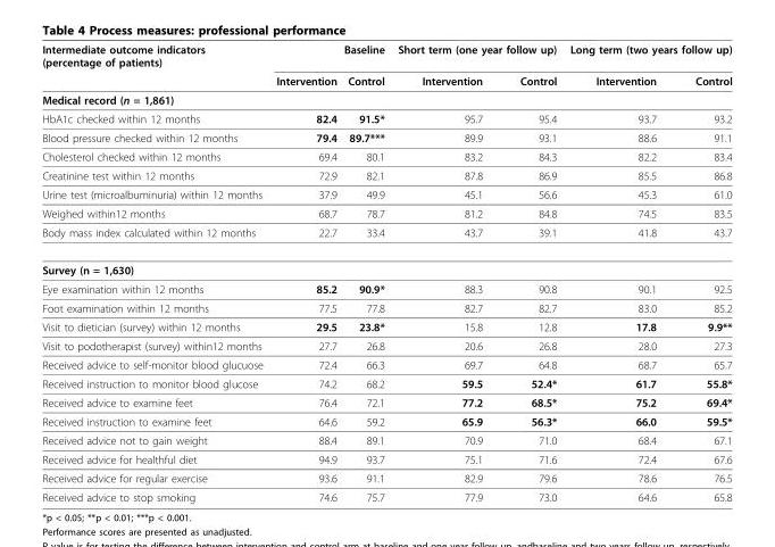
<table><thead><tr><td rowspan="2">Intermediate outcome indicators (percentage of patients)</td><td colspan="2">Baseline</td><td colspan="2">Short term (one year follow up)</td><td colspan="2">Long term (two years follow up)</td></tr><tr><td>Intervention</td><td>Control</td><td>Intervention</td><td>Control</td><td>Intervention</td><td>Control</td></tr></thead><tbody><tr><td colspan="7">Medical record (n = 1,861)</td></tr><tr><td>HbA1c checked within 12 months</td><td>82.4</td><td>91.5*</td><td>95.7</td><td>95.4</td><td>93.7</td><td>93.2</td></tr><tr><td>Blood pressure checked within 12 months</td><td>79.4</td><td>89.7***</td><td>89.9</td><td>93.1</td><td>88.6</td><td>91.1</td></tr><tr><td>Cholesterol checked within 12 months</td><td>69.4</td><td>80.1</td><td>83.2</td><td>84.3</td><td>82.2</td><td>83.4</td></tr><tr><td>Creatinine test within 12 months</td><td>72.9</td><td>82.1</td><td>87.8</td><td>86.9</td><td>85.5</td><td>86.8</td></tr><tr><td>Urine test (microalbuminuria) within 12 months</td><td>37.9</td><td>49.9</td><td>45.1</td><td>56.6</td><td>45.3</td><td>61.0</td></tr><tr><td>Weighed within12 months</td><td>68.7</td><td>78.7</td><td>81.2</td><td>84.8</td><td>74.5</td><td>83.5</td></tr><tr><td>Body mass index calculated within 12 months</td><td>22.7</td><td>33.4</td><td>43.7</td><td>39.1</td><td>41.8</td><td>43.7</td></tr><tr><td colspan="7">Survey (n = 1,630)</td></tr><tr><td>Eye examination within 12 months</td><td>85.2</td><td>90.9*</td><td>88.3</td><td>90.8</td><td>90.1</td><td>92.5</td></tr><tr><td>Foot examination within 12 months</td><td>77.5</td><td>77.8</td><td>82.7</td><td>82.7</td><td>83.0</td><td>85.2</td></tr><tr><td>Visit to dietician (survey) within 12 months</td><td>29.5</td><td>23.8*</td><td>15.8</td><td>12.8</td><td>17.8</td><td>9.9**</td></tr><tr><td>Visit to podotherapist (survey) within12 months</td><td>27.7</td><td>26.8</td><td>20.6</td><td>26.8</td><td>28.0</td><td>27.3</td></tr><tr><td>Received advice to self-monitor blood glucuose</td><td>72.4</td><td>66.3</td><td>69.7</td><td>64.8</td><td>68.7</td><td>65.7</td></tr><tr><td>Received instruction to monitor blood glucose</td><td>74.2</td><td>68.2</td><td>59.5</td><td>52.4*</td><td>61.7</td><td>55.8*</td></tr><tr><td>Received advice to examine feet</td><td>76.4</td><td>72.1</td><td>77.2</td><td>68.5*</td><td>75.2</td><td>69.4*</td></tr><tr><td>Received instruction to examine feet</td><td>64.6</td><td>59.2</td><td>65.9</td><td>56.3*</td><td>66.0</td><td>59.5*</td></tr><tr><td>Received advice not to gain weight</td><td>88.4</td><td>89.1</td><td>70.9</td><td>71.0</td><td>68.4</td><td>67.1</td></tr><tr><td>Received advice for healthful diet</td><td>94.9</td><td>93.7</td><td>75.1</td><td>71.6</td><td>72.4</td><td>67.6</td></tr><tr><td>Received advice for regular exercise</td><td>93.6</td><td>91.1</td><td>82.9</td><td>79.6</td><td>78.6</td><td>76.5</td></tr><tr><td>Received advice to stop smoking</td><td>74.6</td><td>75.7</td><td>77.9</td><td>73.0</td><td>64.6</td><td>65.8</td></tr></tbody></table>